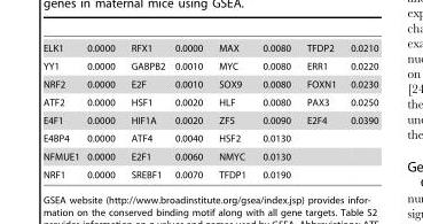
<table><tbody><tr><td>ELK1</td><td>0.0000</td><td>RFX1</td><td>0.0000</td><td>MAX</td><td>0.0080</td><td>TFDP2</td><td>0.0210</td></tr><tr><td>YY1</td><td>0.0000</td><td>GABPB2</td><td>0.0010</td><td>MYC</td><td>0.0080</td><td>ERR1</td><td>0.0220</td></tr><tr><td>NRF2</td><td>0.0000</td><td>E2F</td><td>0.0010</td><td>SOX9</td><td>0.0080</td><td>FOXN1</td><td>0.0230</td></tr><tr><td>ATF2</td><td>0.0000</td><td>HSF1</td><td>0.0020</td><td>HLF</td><td>0.0080</td><td>PAX3</td><td>0.0250</td></tr><tr><td>E4F1</td><td>0.0000</td><td>HIF1A</td><td>0.0020</td><td>ZF5</td><td>0.0090</td><td>E2F4</td><td>0.0390</td></tr><tr><td>E4BP4</td><td>0.0000</td><td>ATF4</td><td>0.0040</td><td>HSF2</td><td>0.0130</td><td></td><td></td></tr><tr><td>NFMUE1</td><td>0.0000</td><td>E2F1</td><td>0.0060</td><td>NMYC</td><td>0.0130</td><td></td><td></td></tr><tr><td>NRF1</td><td>0.0000</td><td>SREBF1</td><td>0.0070</td><td>TFDP1</td><td>0.0190</td><td></td><td></td></tr></tbody></table>